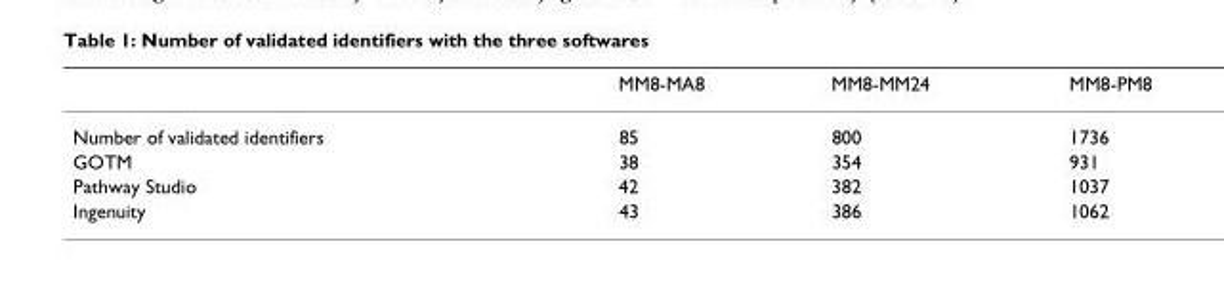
<table><thead><tr><td></td><td>MM8-MA8</td><td>MM8-MM24</td><td>MM8-PM8</td></tr></thead><tbody><tr><td>Number of validated identifiers</td><td>85</td><td>800</td><td>1736</td></tr><tr><td>GOTM</td><td>38</td><td>354</td><td>931</td></tr><tr><td>Pathway Studio</td><td>42</td><td>382</td><td>1037</td></tr><tr><td>Ingenuity</td><td>43</td><td>386</td><td>1062</td></tr></tbody></table>